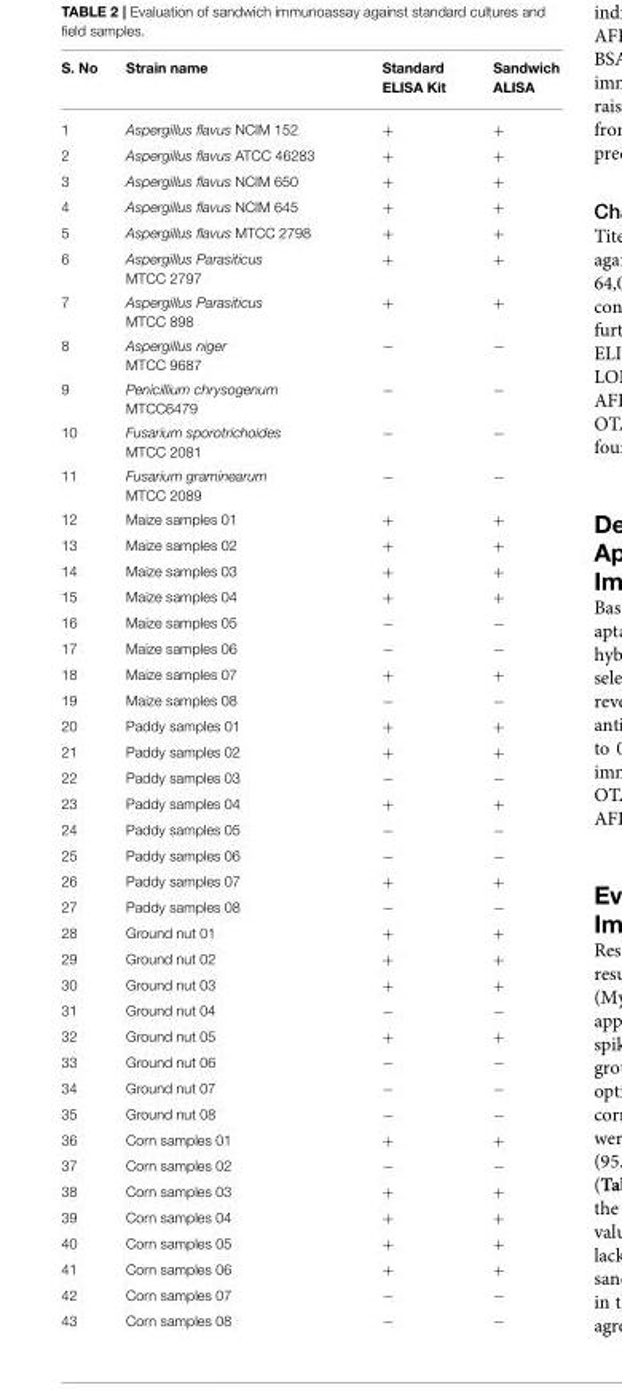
<table><thead><tr><td>S. No</td><td>Strain name</td><td>Standard ELISA Kit</td><td>Sandwich ALISA</td></tr></thead><tbody><tr><td>1</td><td>Aspergillus flavus NCIM 152</td><td>+</td><td>+</td></tr><tr><td>2</td><td>Aspergillus flavus ATCC 46283</td><td>+</td><td>+</td></tr><tr><td>3</td><td>Aspergillus flavus NCIM 650</td><td>+</td><td>+</td></tr><tr><td>4</td><td>Aspergillus flavus NCIM 645</td><td>+</td><td>+</td></tr><tr><td>5</td><td>Aspergillus flavus MTCC 2798</td><td>+</td><td>+</td></tr><tr><td>6</td><td>Aspergillus Parasiticus MTCC 2797</td><td>+</td><td>+</td></tr><tr><td>7</td><td>Aspergillus Parasiticus MTCC 898</td><td>+</td><td>+</td></tr><tr><td>8</td><td>Aspergillus niger MTCC 9687</td><td>−</td><td>−</td></tr><tr><td>9</td><td>Penicillium chrysogenum MTCC6479</td><td>−</td><td>−</td></tr><tr><td>10</td><td>Fusarium sporotrichoides MTCC 2081</td><td>−</td><td>−</td></tr><tr><td>11</td><td>Fusarium graminearum MTCC 2089</td><td>−</td><td>−</td></tr><tr><td>12</td><td>Maize samples 01</td><td>+</td><td>+</td></tr><tr><td>13</td><td>Maize samples 02</td><td>+</td><td>+</td></tr><tr><td>14</td><td>Maize samples 03</td><td>+</td><td>+</td></tr><tr><td>15</td><td>Maize samples 04</td><td>+</td><td>+</td></tr><tr><td>16</td><td>Maize samples 05</td><td>−</td><td>−</td></tr><tr><td>17</td><td>Maize samples 06</td><td>−</td><td>−</td></tr><tr><td>18</td><td>Maize samples 07</td><td>+</td><td>+</td></tr><tr><td>19</td><td>Maize samples 08</td><td>−</td><td>−</td></tr><tr><td>20</td><td>Paddy samples 01</td><td>+</td><td>+</td></tr><tr><td>21</td><td>Paddy samples 02</td><td>+</td><td>+</td></tr><tr><td>22</td><td>Paddy samples 03</td><td>−</td><td>−</td></tr><tr><td>23</td><td>Paddy samples 04</td><td>+</td><td>+</td></tr><tr><td>24</td><td>Paddy samples 05</td><td>−</td><td>−</td></tr><tr><td>25</td><td>Paddy samples 06</td><td>−</td><td>−</td></tr><tr><td>26</td><td>Paddy samples 07</td><td>+</td><td>+</td></tr><tr><td>27</td><td>Paddy samples 08</td><td>−</td><td>−</td></tr><tr><td>28</td><td>Ground nut 01</td><td>+</td><td>+</td></tr><tr><td>29</td><td>Ground nut 02</td><td>+</td><td>+</td></tr><tr><td>30</td><td>Ground nut 03</td><td>+</td><td>+</td></tr><tr><td>31</td><td>Ground nut 04</td><td>−</td><td>−</td></tr><tr><td>32</td><td>Ground nut 05</td><td>+</td><td>+</td></tr><tr><td>33</td><td>Ground nut 06</td><td>−</td><td>−</td></tr><tr><td>34</td><td>Ground nut 07</td><td>−</td><td>−</td></tr><tr><td>35</td><td>Ground nut 08</td><td>−</td><td>−</td></tr><tr><td>36</td><td>Corn samples 01</td><td>+</td><td>+</td></tr><tr><td>37</td><td>Corn samples 02</td><td>−</td><td>−</td></tr><tr><td>38</td><td>Corn samples 03</td><td>+</td><td>+</td></tr><tr><td>39</td><td>Corn samples 04</td><td>+</td><td>+</td></tr><tr><td>40</td><td>Corn samples 05</td><td>+</td><td>+</td></tr><tr><td>41</td><td>Corn samples 06</td><td>+</td><td>+</td></tr><tr><td>42</td><td>Corn samples 07</td><td>−</td><td>−</td></tr><tr><td>43</td><td>Corn samples 08</td><td>−</td><td>−</td></tr></tbody></table>